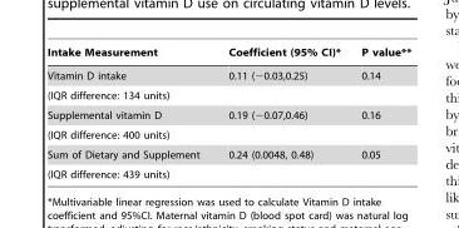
<table><thead><tr><td>Intake Measurement</td><td>Coefficient (95% CI)*</td><td>P value**</td></tr></thead><tbody><tr><td>Vitamin D intake</td><td>0.11 (−0.03,0.25)</td><td>0.14</td></tr><tr><td colspan="3">(IQR difference: 134 units)</td></tr><tr><td>Supplemental vitamin D</td><td>0.19 (−0.07,0.46)</td><td>0.16</td></tr><tr><td colspan="3">(IQR difference: 400 units)</td></tr><tr><td>Sum of Dietary and Supplement</td><td>0.24 (0.0048, 0.48)</td><td>0.05</td></tr><tr><td>(IQR difference: 439 units)</td><td></td><td></td></tr></tbody></table>